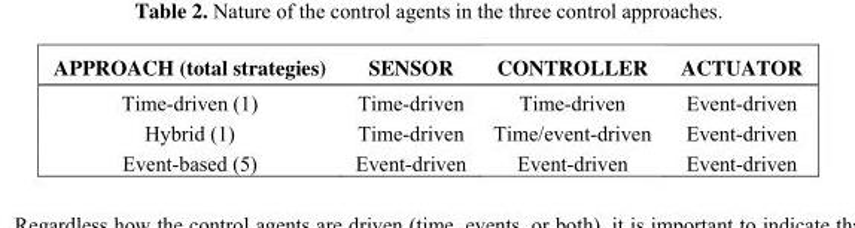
<table><thead><tr><td>APPROACH (total strategies)</td><td>SENSOR</td><td>CONTROLLER</td><td>ACTUATOR</td></tr></thead><tbody><tr><td>Time-driven (1)</td><td>Time-driven</td><td>Time-driven</td><td>Event-driven</td></tr><tr><td>Hybrid (1)</td><td>Time-driven</td><td>Time/event-driven</td><td>Event-driven</td></tr><tr><td>Event-based (5)</td><td>Event-driven</td><td>Event-driven</td><td>Event-driven</td></tr></tbody></table>